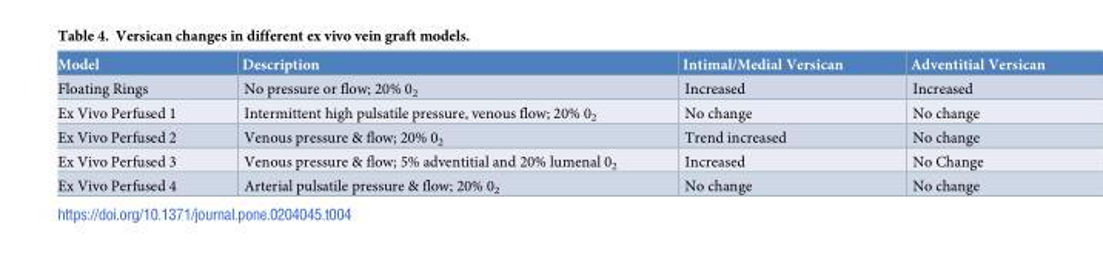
<table><thead><tr><td>Model</td><td>Description</td><td>Intimal/Medial Versican</td><td>Adventitial Versican</td></tr></thead><tbody><tr><td>Floating Rings</td><td>No pressure or flow; 20% 0<sub>2</sub></td><td>Increased</td><td>Increased</td></tr><tr><td>Ex Vivo Perfused 1</td><td>Intermittent high pulsatile pressure, venous flow; 20% 0<sub>2</sub></td><td>No change</td><td>No change</td></tr><tr><td>Ex Vivo Perfused 2</td><td>Venous pressure &amp; flow; 20% 0<sub>2</sub></td><td>Trend increased</td><td>No change</td></tr><tr><td>Ex Vivo Perfused 3</td><td>Venous pressure &amp; flow; 5% adventitial and 20% lumenal 0<sub>2</sub></td><td>Increased</td><td>No Change</td></tr><tr><td>Ex Vivo Perfused 4</td><td>Arterial pulsatile pressure &amp; flow; 20% 0<sub>2</sub></td><td>No change</td><td>No change</td></tr></tbody></table>